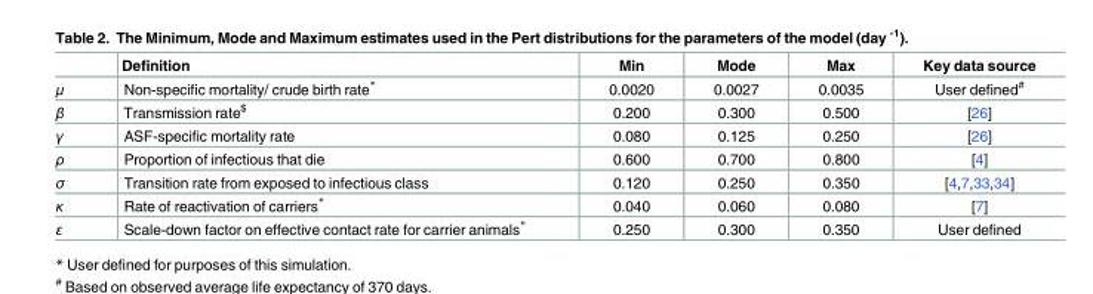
<table><thead><tr><td></td><td>Definition</td><td>Min</td><td>Mode</td><td>Max</td><td>Key data source</td></tr></thead><tbody><tr><td>μ</td><td>Non-specific mortality/ crude birth rate*</td><td>0.0020</td><td>0.0027</td><td>0.0035</td><td>User defined<sup>#</sup></td></tr><tr><td>β</td><td>Transmission rate<sup>$</sup></td><td>0.200</td><td>0.300</td><td>0.500</td><td>[26]</td></tr><tr><td>γ</td><td>ASF-specific mortality rate</td><td>0.080</td><td>0.125</td><td>0.250</td><td>[26]</td></tr><tr><td>ρ</td><td>Proportion of infectious that die</td><td>0.600</td><td>0.700</td><td>0.800</td><td>[4]</td></tr><tr><td>σ</td><td>Transition rate from exposed to infectious class</td><td>0.120</td><td>0.250</td><td>0.350</td><td>[4,7,33,34]</td></tr><tr><td>κ</td><td>Rate of reactivation of carriers*</td><td>0.040</td><td>0.060</td><td>0.080</td><td>[7]</td></tr><tr><td>ε</td><td>Scale-down factor on effective contact rate for carrier animals*</td><td>0.250</td><td>0.300</td><td>0.350</td><td>User defined</td></tr></tbody></table>